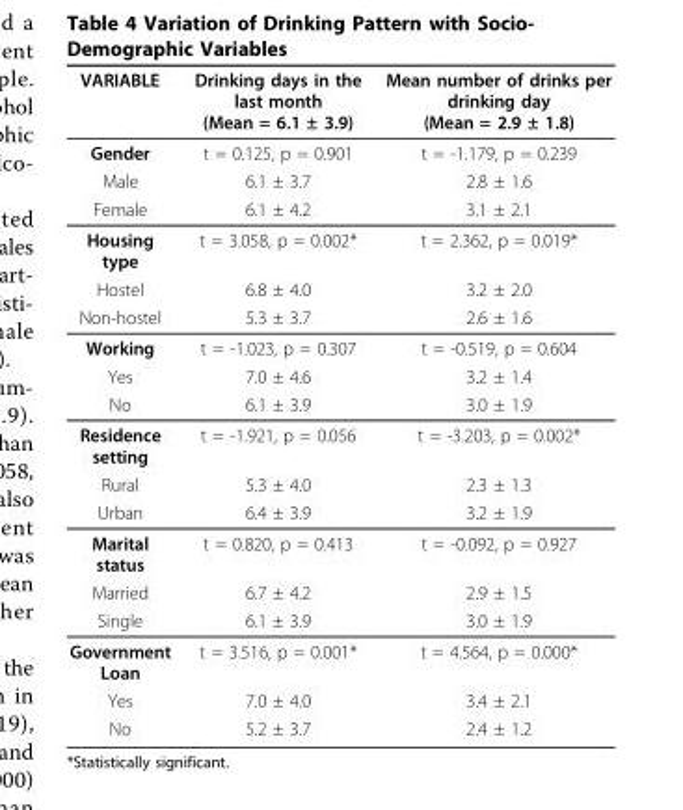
<table><thead><tr><td>VARIABLE</td><td>Drinking days in the last month (Mean = 6.1 ± 3.9)</td><td>Mean number of drinks per drinking day (Mean = 2.9 ± 1.8)</td></tr></thead><tbody><tr><td>Gender</td><td>t = 0.125, p = 0.901</td><td>t = -1.179, p = 0.239</td></tr><tr><td>Male</td><td>6.1 ± 3.7</td><td>2.8 ± 1.6</td></tr><tr><td>Female</td><td>6.1 ± 4.2</td><td>3.1 ± 2.1</td></tr><tr><td>Housing type</td><td>t = 3.058, p = 0.002*</td><td>t = 2.362, p = 0.019*</td></tr><tr><td>Hostel</td><td>6.8 ± 4.0</td><td>3.2 ± 2.0</td></tr><tr><td>Non-hostel</td><td>5.3 ± 3.7</td><td>2.6 ± 1.6</td></tr><tr><td>Working</td><td>t = -1.023, p = 0.307</td><td>t = -0.519, p = 0.604</td></tr><tr><td>Yes</td><td>7.0 ± 4.6</td><td>3.2 ± 1.4</td></tr><tr><td>No</td><td>6.1 ± 3.9</td><td>3.0 ± 1.9</td></tr><tr><td>Residence setting</td><td>t = -1.921, p = 0.056</td><td>t = -3.203, p = 0.002*</td></tr><tr><td>Rural</td><td>5.3 ± 4.0</td><td>2.3 ± 1.3</td></tr><tr><td>Urban</td><td>6.4 ± 3.9</td><td>3.2 ± 1.9</td></tr><tr><td>Marital status</td><td>t = 0.820, p = 0.413</td><td>t = -0.092, p = 0.927</td></tr><tr><td>Married</td><td>6.7 ± 4.2</td><td>2.9 ± 1.5</td></tr><tr><td>Single</td><td>6.1 ± 3.9</td><td>3.0 ± 1.9</td></tr><tr><td>Government Loan</td><td>t = 3.516, p = 0.001*</td><td>t = 4.564, p = 0.000*</td></tr><tr><td>Yes</td><td>7.0 ± 4.0</td><td>3.4 ± 2.1</td></tr><tr><td>No</td><td>5.2 ± 3.7</td><td>2.4 ± 1.2</td></tr></tbody></table>